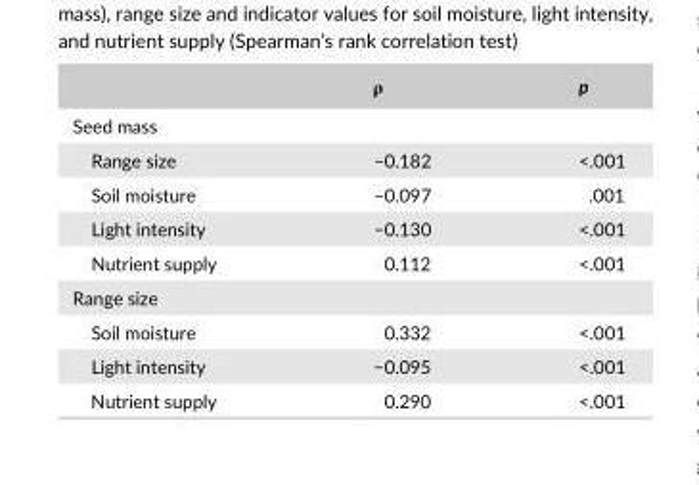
<table><thead><tr><td></td><td>ρ</td><td>p</td></tr></thead><tbody><tr><td colspan="3">Seed mass</td></tr><tr><td>Range size</td><td>−0.182</td><td>&lt;.001</td></tr><tr><td>Soil moisture</td><td>−0.097</td><td>.001</td></tr><tr><td>Light intensity</td><td>−0.130</td><td>&lt;.001</td></tr><tr><td>Nutrient supply</td><td>0.112</td><td>&lt;.001</td></tr><tr><td colspan="3">Range size</td></tr><tr><td>Soil moisture</td><td>0.332</td><td>&lt;.001</td></tr><tr><td>Light intensity</td><td>−0.095</td><td>&lt;.001</td></tr><tr><td>Nutrient supply</td><td>0.290</td><td>&lt;.001</td></tr></tbody></table>